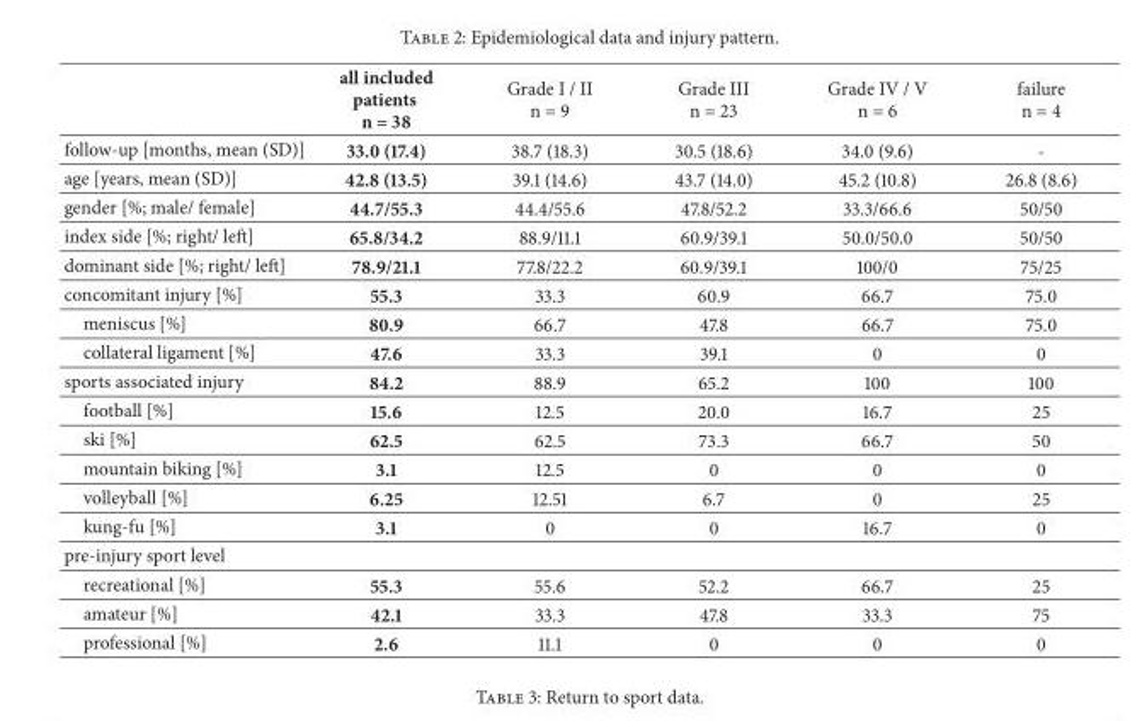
<table><thead><tr><td></td><td>all included patients n = 38</td><td>Grade I / II n = 9</td><td>Grade III n = 23</td><td>Grade IV / V n = 6</td><td>failure n = 4</td></tr></thead><tbody><tr><td>follow-up [months, mean (SD)]</td><td>33.0 (17.4)</td><td>38.7 (18.3)</td><td>30.5 (18.6)</td><td>34.0 (9.6)</td><td>-</td></tr><tr><td>age [years, mean (SD)]</td><td>42.8 (13.5)</td><td>39.1 (14.6)</td><td>43.7 (14.0)</td><td>45.2 (10.8)</td><td>26.8 (8.6)</td></tr><tr><td>gender [%; male/ female]</td><td>44.7/55.3</td><td>44.4/55.6</td><td>47.8/52.2</td><td>33.3/66.6</td><td>50/50</td></tr><tr><td>index side [%; right/ left]</td><td>65.8/34.2</td><td>88.9/11.1</td><td>60.9/39.1</td><td>50.0/50.0</td><td>50/50</td></tr><tr><td>dominant side [%; right/ left]</td><td>78.9/21.1</td><td>77.8/22.2</td><td>60.9/39.1</td><td>100/0</td><td>75/25</td></tr><tr><td>concomitant injury [%]</td><td>55.3</td><td>33.3</td><td>60.9</td><td>66.7</td><td>75.0</td></tr><tr><td>meniscus [%]</td><td>80.9</td><td>66.7</td><td>47.8</td><td>66.7</td><td>75.0</td></tr><tr><td>collateral ligament [%]</td><td>47.6</td><td>33.3</td><td>39.1</td><td>0</td><td>0</td></tr><tr><td>sports associated injury</td><td>84.2</td><td>88.9</td><td>65.2</td><td>100</td><td>100</td></tr><tr><td>football [%]</td><td>15.6</td><td>12.5</td><td>20.0</td><td>16.7</td><td>25</td></tr><tr><td>ski [%]</td><td>62.5</td><td>62.5</td><td>73.3</td><td>66.7</td><td>50</td></tr><tr><td>mountain biking [%]</td><td>3.1</td><td>12.5</td><td>0</td><td>0</td><td>0</td></tr><tr><td>volleyball [%]</td><td>6.25</td><td>12.51</td><td>6.7</td><td>0</td><td>25</td></tr><tr><td>kung-fu [%]</td><td>3.1</td><td>0</td><td>0</td><td>16.7</td><td>0</td></tr><tr><td colspan="6">pre-injury sport level</td></tr><tr><td>recreational [%]</td><td>55.3</td><td>55.6</td><td>52.2</td><td>66.7</td><td>25</td></tr><tr><td>amateur [%]</td><td>42.1</td><td>33.3</td><td>47.8</td><td>33.3</td><td>75</td></tr><tr><td>professional [%]</td><td>2.6</td><td>11.1</td><td>0</td><td>0</td><td>0</td></tr></tbody></table>